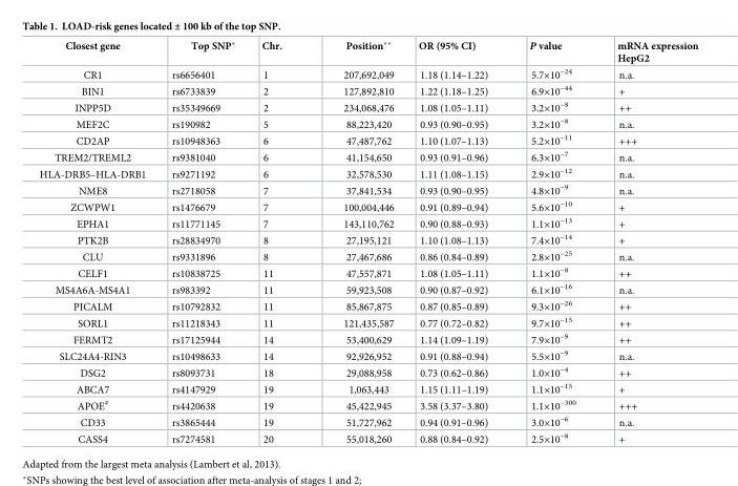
<table><thead><tr><td>Closest gene</td><td>Top SNP*</td><td>Chr.</td><td>Position**</td><td>OR (95% CI)</td><td>P value</td><td>mRNA expression HepG2</td></tr></thead><tbody><tr><td>CR1</td><td>rs6656401</td><td>1</td><td>207,692,049</td><td>1.18 (1.14–1.22)</td><td>5.7×10<sup>−24</sup></td><td>n.a.</td></tr><tr><td>BIN1</td><td>rs6733839</td><td>2</td><td>127,892,810</td><td>1.22 (1.18–1.25)</td><td>6.9×10<sup>−44</sup></td><td>+</td></tr><tr><td>INPP5D</td><td>rs35349669</td><td>2</td><td>234,068,476</td><td>1.08 (1.05–1.11)</td><td>3.2×10<sup>−8</sup></td><td>++</td></tr><tr><td>MEF2C</td><td>rs190982</td><td>5</td><td>88,223,420</td><td>0.93 (0.90–0.95)</td><td>3.2×10<sup>−8</sup></td><td>n.a.</td></tr><tr><td>CD2AP</td><td>rs10948363</td><td>6</td><td>47,487,762</td><td>1.10 (1.07–1.13)</td><td>5.2×10<sup>−11</sup></td><td>+++</td></tr><tr><td>TREM2/TREML2</td><td>rs9381040</td><td>6</td><td>41,154,650</td><td>0.93 (0.91–0.96)</td><td>6.3×10<sup>−7</sup></td><td>n.a.</td></tr><tr><td>HLA-DRB5–HLA-DRB1</td><td>rs9271192</td><td>6</td><td>32,578,530</td><td>1.11 (1.08–1.15)</td><td>2.9×10<sup>−12</sup></td><td>n.a.</td></tr><tr><td>NME8</td><td>rs2718058</td><td>7</td><td>37,841,534</td><td>0.93 (0.90–0.95)</td><td>4.8×10<sup>−9</sup></td><td>n.a.</td></tr><tr><td>ZCWPW1</td><td>rs1476679</td><td>7</td><td>100,004,446</td><td>0.91 (0.89–0.94)</td><td>5.6×10<sup>−10</sup></td><td>+</td></tr><tr><td>EPHA1</td><td>rs11771145</td><td>7</td><td>143,110,762</td><td>0.90 (0.88–0.93)</td><td>1.1×10<sup>−13</sup></td><td>+</td></tr><tr><td>PTK2B</td><td>rs28834970</td><td>8</td><td>27,195,121</td><td>1.10 (1.08–1.13)</td><td>7.4×10<sup>−14</sup></td><td>+</td></tr><tr><td>CLU</td><td>rs9331896</td><td>8</td><td>27,467,686</td><td>0.86 (0.84–0.89)</td><td>2.8×10<sup>−25</sup></td><td>n.a.</td></tr><tr><td>CELF1</td><td>rs10838725</td><td>11</td><td>47,557,871</td><td>1.08 (1.05–1.11)</td><td>1.1×10<sup>−8</sup></td><td>++</td></tr><tr><td>MS4A6A-MS4A1</td><td>rs983392</td><td>11</td><td>59,923,508</td><td>0.90 (0.87–0.92)</td><td>6.1×10<sup>−16</sup></td><td>n.a.</td></tr><tr><td>PICALM</td><td>rs10792832</td><td>11</td><td>85,867,875</td><td>0.87 (0.85–0.89)</td><td>9.3×10<sup>−26</sup></td><td>++</td></tr><tr><td>SORL1</td><td>rs11218343</td><td>11</td><td>121,435,587</td><td>0.77 (0.72–0.82)</td><td>9.7×10<sup>−15</sup></td><td>++</td></tr><tr><td>FERMT2</td><td>rs17125944</td><td>14</td><td>53,400,629</td><td>1.14 (1.09–1.19)</td><td>7.9×10<sup>−9</sup></td><td>++</td></tr><tr><td>SLC24A4-RIN3</td><td>rs10498633</td><td>14</td><td>92,926,952</td><td>0.91 (0.88–0.94)</td><td>5.5×10<sup>−9</sup></td><td>n.a.</td></tr><tr><td>DSG2</td><td>rs8093731</td><td>18</td><td>29,088,958</td><td>0.73 (0.62–0.86)</td><td>1.0×10<sup>−4</sup></td><td>++</td></tr><tr><td>ABCA7</td><td>rs4147929</td><td>19</td><td>1,063,443</td><td>1.15 (1.11–1.19)</td><td>1.1×10<sup>−15</sup></td><td>+</td></tr><tr><td>APOE<sup>#</sup></td><td>rs4420638</td><td>19</td><td>45,422,945</td><td>3.58 (3.37–3.80)</td><td>1.1×10<sup>−300</sup></td><td>+++</td></tr><tr><td>CD33</td><td>rs3865444</td><td>19</td><td>51,727,962</td><td>0.94 (0.91–0.96)</td><td>3.0×10<sup>−6</sup></td><td>n.a.</td></tr><tr><td>CASS4</td><td>rs7274581</td><td>20</td><td>55,018,260</td><td>0.88 (0.84–0.92)</td><td>2.5×10<sup>−8</sup></td><td>+</td></tr></tbody></table>